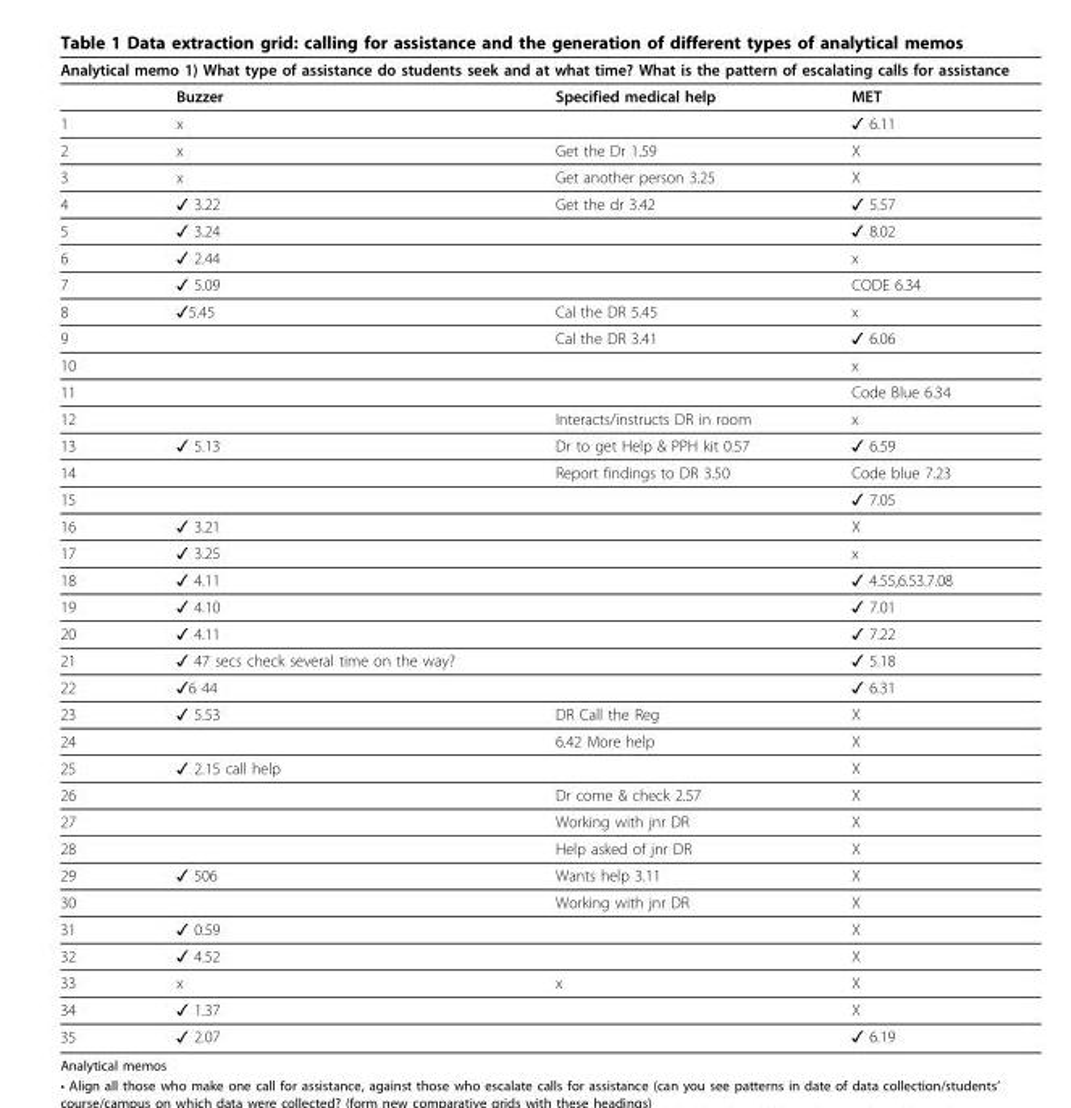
<table><thead><tr><td colspan="4">Analytical memo 1) What type of assistance do students seek and at what time? What is the pattern of escalating calls for assistance</td></tr><tr><td></td><td>Buzzer</td><td>Specified medical help</td><td>MET</td></tr></thead><tbody><tr><td>1</td><td>x</td><td></td><td>✓ 6.11</td></tr><tr><td>2</td><td>x</td><td>Get the Dr 1.59</td><td>X</td></tr><tr><td>3</td><td>x</td><td>Get another person 3.25</td><td>X</td></tr><tr><td>4</td><td>✓ 3.22</td><td>Get the dr 3.42</td><td>✓ 5.57</td></tr><tr><td>5</td><td>✓ 3.24</td><td></td><td>✓ 8.02</td></tr><tr><td>6</td><td>✓ 2.44</td><td></td><td>x</td></tr><tr><td>7</td><td>✓ 5.09</td><td></td><td>CODE 6.34</td></tr><tr><td>8</td><td>✓5.45</td><td>Cal the DR 5.45</td><td>x</td></tr><tr><td>9</td><td></td><td>Cal the DR 3.41</td><td>✓ 6.06</td></tr><tr><td>10</td><td></td><td></td><td>x</td></tr><tr><td>11</td><td></td><td></td><td>Code Blue 6.34</td></tr><tr><td>12</td><td></td><td>Interacts/instructs DR in room</td><td>x</td></tr><tr><td>13</td><td>✓ 5.13</td><td>Dr to get Help &amp; PPH kit 0.57</td><td>✓ 6.59</td></tr><tr><td>14</td><td></td><td>Report findings to DR 3.50</td><td>Code blue 7.23</td></tr><tr><td>15</td><td></td><td></td><td>✓ 7.05</td></tr><tr><td>16</td><td>✓ 3.21</td><td></td><td>X</td></tr><tr><td>17</td><td>✓ 3.25</td><td></td><td>x</td></tr><tr><td>18</td><td>✓ 4.11</td><td></td><td>✓ 4.55,6.53.7.08</td></tr><tr><td>19</td><td>✓ 4.10</td><td></td><td>✓ 7.01</td></tr><tr><td>20</td><td>✓ 4.11</td><td></td><td>✓ 7.22</td></tr><tr><td>21</td><td>✓ 47 secs check several time on the way?</td><td></td><td>✓ 5.18</td></tr><tr><td>22</td><td>✓6 44</td><td></td><td>✓ 6.31</td></tr><tr><td>23</td><td>✓ 5.53</td><td>DR Call the Reg</td><td>X</td></tr><tr><td>24</td><td></td><td>6.42 More help</td><td>X</td></tr><tr><td>25</td><td>✓ 2.15 call help</td><td></td><td>X</td></tr><tr><td>26</td><td></td><td>Dr come &amp; check 2.57</td><td>X</td></tr><tr><td>27</td><td></td><td>Working with jnr DR</td><td>X</td></tr><tr><td>28</td><td></td><td>Help asked of jnr DR</td><td>X</td></tr><tr><td>29</td><td>✓ 506</td><td>Wants help 3.11</td><td>X</td></tr><tr><td>30</td><td></td><td>Working with jnr DR</td><td>X</td></tr><tr><td>31</td><td>✓ 0.59</td><td></td><td>X</td></tr><tr><td>32</td><td>✓ 4.52</td><td></td><td>X</td></tr><tr><td>33</td><td>x</td><td>x</td><td>X</td></tr><tr><td>34</td><td>✓ 1.37</td><td></td><td>X</td></tr><tr><td>35</td><td>✓ 2.07</td><td></td><td>✓ 6.19</td></tr></tbody></table>